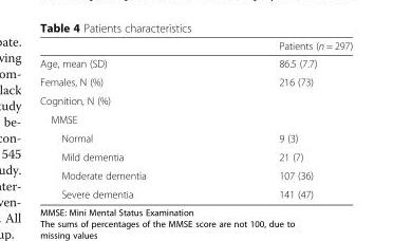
<table><thead><tr><td></td><td>Patients (n = 297)</td></tr></thead><tbody><tr><td>Age, mean (SD)</td><td>86.5 (7.7)</td></tr><tr><td>Females, N (%)</td><td>216 (73)</td></tr><tr><td colspan="2">Cognition, N (%)</td></tr><tr><td colspan="2">MMSE</td></tr><tr><td>Normal</td><td>9 (3)</td></tr><tr><td>Mild dementia</td><td>21 (7)</td></tr><tr><td>Moderate dementia</td><td>107 (36)</td></tr><tr><td>Severe dementia</td><td>141 (47)</td></tr></tbody></table>